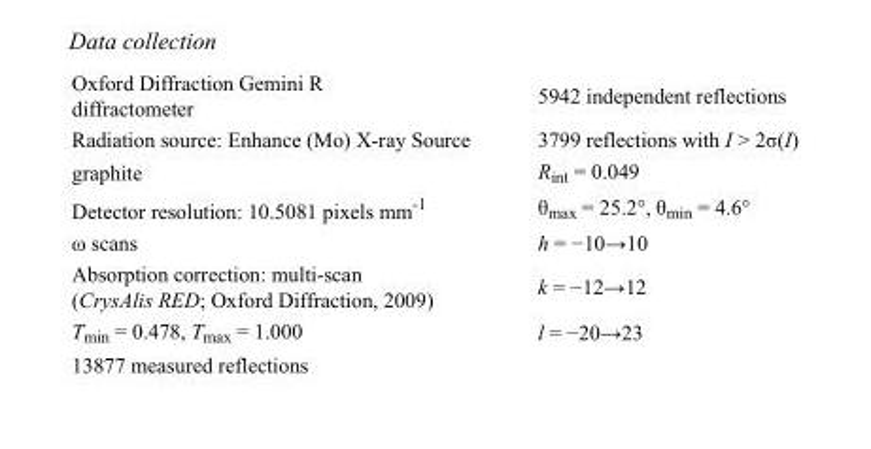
<table><tbody><tr><td>Oxford Diffraction Gemini R diffractometer</td><td>5942 independent reflections</td></tr><tr><td>Radiation source: Enhance (Mo) X-ray Source</td><td>3799 reflections with I &gt; 2σ(I)</td></tr><tr><td>graphite</td><td>R<sub>int</sub> = 0.049</td></tr><tr><td>Detector resolution: 10.5081 pixels mm<sup>-1</sup></td><td>θ<sub>max</sub> = 25.2°, θ<sub>min</sub> = 4.6°</td></tr><tr><td>ω scans</td><td>h = −10→10</td></tr><tr><td>Absorption correction: multi-scan (CrysAlis RED; Oxford Diffraction, 2009)</td><td>k = −12→12</td></tr><tr><td>T<sub>min</sub> = 0.478, T<sub>max</sub> = 1.000</td><td>l = −20→23</td></tr><tr><td>13877 measured reflections</td><td></td></tr></tbody></table>